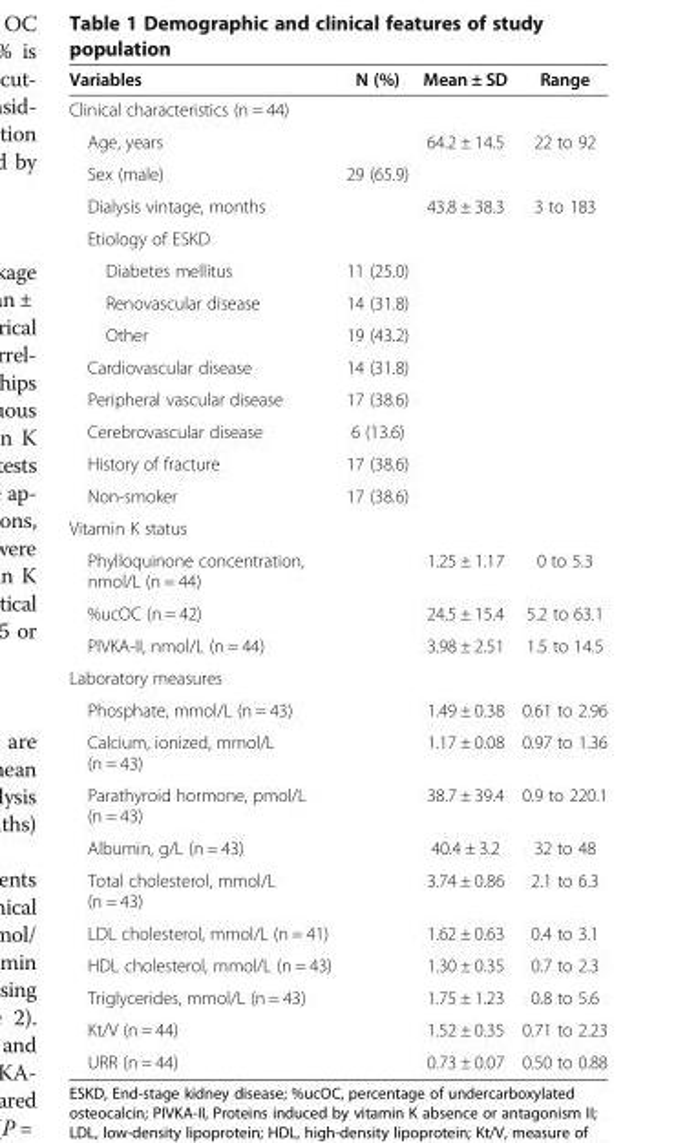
<table><thead><tr><td>Variables</td><td>N (%)</td><td>Mean ± SD</td><td>Range</td></tr></thead><tbody><tr><td colspan="4">Clinical characteristics (n = 44)</td></tr><tr><td>Age, years</td><td></td><td>64.2 ± 14.5</td><td>22 to 92</td></tr><tr><td>Sex (male)</td><td>29 (65.9)</td><td></td><td></td></tr><tr><td>Dialysis vintage, months</td><td></td><td>43.8 ± 38.3</td><td>3 to 183</td></tr><tr><td colspan="4">Etiology of ESKD</td></tr><tr><td>Diabetes mellitus</td><td>11 (25.0)</td><td></td><td></td></tr><tr><td>Renovascular disease</td><td>14 (31.8)</td><td></td><td></td></tr><tr><td>Other</td><td>19 (43.2)</td><td></td><td></td></tr><tr><td>Cardiovascular disease</td><td>14 (31.8)</td><td></td><td></td></tr><tr><td>Peripheral vascular disease</td><td>17 (38.6)</td><td></td><td></td></tr><tr><td>Cerebrovascular disease</td><td>6 (13.6)</td><td></td><td></td></tr><tr><td>History of fracture</td><td>17 (38.6)</td><td></td><td></td></tr><tr><td>Non-smoker</td><td>17 (38.6)</td><td></td><td></td></tr><tr><td colspan="4">Vitamin K status</td></tr><tr><td>Phylloquinone concentration, nmol/L (n = 44)</td><td></td><td>1.25 ± 1.17</td><td>0 to 5.3</td></tr><tr><td>%ucOC (n = 42)</td><td></td><td>24.5 ± 15.4</td><td>5.2 to 63.1</td></tr><tr><td>PIVKA-II, nmol/L (n = 44)</td><td></td><td>3.98 ± 2.51</td><td>1.5 to 14.5</td></tr><tr><td colspan="4">Laboratory measures</td></tr><tr><td>Phosphate, mmol/L (n = 43)</td><td></td><td>1.49 ± 0.38</td><td>0.61 to 2.96</td></tr><tr><td>Calcium, ionized, mmol/L (n = 43)</td><td></td><td>1.17 ± 0.08</td><td>0.97 to 1.36</td></tr><tr><td>Parathyroid hormone, pmol/L (n = 43)</td><td></td><td>38.7 ± 39.4</td><td>0.9 to 220.1</td></tr><tr><td>Albumin, g/L (n = 43)</td><td></td><td>40.4 ± 3.2</td><td>32 to 48</td></tr><tr><td>Total cholesterol, mmol/L (n = 43)</td><td></td><td>3.74 ± 0.86</td><td>2.1 to 6.3</td></tr><tr><td>LDL cholesterol, mmol/L (n = 41)</td><td></td><td>1.62 ± 0.63</td><td>0.4 to 3.1</td></tr><tr><td>HDL cholesterol, mmol/L (n = 43)</td><td></td><td>1.30 ± 0.35</td><td>0.7 to 2.3</td></tr><tr><td>Triglycerides, mmol/L (n = 43)</td><td></td><td>1.75 ± 1.23</td><td>0.8 to 5.6</td></tr><tr><td>Kt/V (n = 44)</td><td></td><td>1.52 ± 0.35</td><td>0.71 to 2.23</td></tr><tr><td>URR (n = 44)</td><td></td><td>0.73 ± 0.07</td><td>0.50 to 0.88</td></tr></tbody></table>